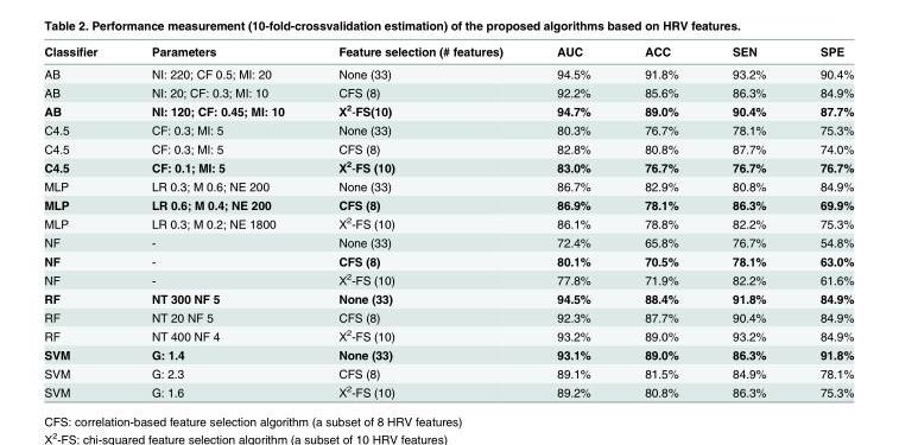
<table><thead><tr><td>Classifier</td><td>Parameters</td><td>Feature selection (# features)</td><td>AUC</td><td>ACC</td><td>SEN</td><td>SPE</td></tr></thead><tbody><tr><td>AB</td><td>NI: 220; CF 0.5; MI: 20</td><td>None (33)</td><td>94.5%</td><td>91.8%</td><td>93.2%</td><td>90.4%</td></tr><tr><td>AB</td><td>NI: 20; CF: 0.3; MI: 10</td><td>CFS (8)</td><td>92.2%</td><td>85.6%</td><td>86.3%</td><td>84.9%</td></tr><tr><td>AB</td><td>NI: 120; CF: 0.45; MI: 10</td><td>Χ<sup>2</sup>-FS(10)</td><td>94.7%</td><td>89.0%</td><td>90.4%</td><td>87.7%</td></tr><tr><td>C4.5</td><td>CF: 0.3; MI: 5</td><td>None (33)</td><td>80.3%</td><td>76.7%</td><td>78.1%</td><td>75.3%</td></tr><tr><td>C4.5</td><td>CF: 0.3; MI: 5</td><td>CFS (8)</td><td>82.8%</td><td>80.8%</td><td>87.7%</td><td>74.0%</td></tr><tr><td>C4.5</td><td>CF: 0.1; MI: 5</td><td>Χ<sup>2</sup>-FS (10)</td><td>83.0%</td><td>76.7%</td><td>76.7%</td><td>76.7%</td></tr><tr><td>MLP</td><td>LR 0.3; M 0.6; NE 200</td><td>None (33)</td><td>86.7%</td><td>82.9%</td><td>80.8%</td><td>84.9%</td></tr><tr><td>MLP</td><td>LR 0.6; M 0.4; NE 200</td><td>CFS (8)</td><td>86.9%</td><td>78.1%</td><td>86.3%</td><td>69.9%</td></tr><tr><td>MLP</td><td>LR 0.3; M 0.2; NE 1800</td><td>Χ<sup>2</sup>-FS (10)</td><td>86.1%</td><td>78.8%</td><td>82.2%</td><td>75.3%</td></tr><tr><td>NF</td><td>-</td><td>None (33)</td><td>72.4%</td><td>65.8%</td><td>76.7%</td><td>54.8%</td></tr><tr><td>NF</td><td>-</td><td>CFS (8)</td><td>80.1%</td><td>70.5%</td><td>78.1%</td><td>63.0%</td></tr><tr><td>NF</td><td>-</td><td>Χ<sup>2</sup>-FS (10)</td><td>77.8%</td><td>71.9%</td><td>82.2%</td><td>61.6%</td></tr><tr><td>RF</td><td>NT 300 NF 5</td><td>None (33)</td><td>94.5%</td><td>88.4%</td><td>91.8%</td><td>84.9%</td></tr><tr><td>RF</td><td>NT 20 NF 5</td><td>CFS (8)</td><td>92.3%</td><td>87.7%</td><td>90.4%</td><td>84.9%</td></tr><tr><td>RF</td><td>NT 400 NF 4</td><td>Χ<sup>2</sup>-FS (10)</td><td>93.2%</td><td>89.0%</td><td>93.2%</td><td>84.9%</td></tr><tr><td>SVM</td><td>G: 1.4</td><td>None (33)</td><td>93.1%</td><td>89.0%</td><td>86.3%</td><td>91.8%</td></tr><tr><td>SVM</td><td>G: 2.3</td><td>CFS (8)</td><td>89.1%</td><td>81.5%</td><td>84.9%</td><td>78.1%</td></tr><tr><td>SVM</td><td>G: 1.6</td><td>Χ<sup>2</sup>-FS (10)</td><td>89.2%</td><td>80.8%</td><td>86.3%</td><td>75.3%</td></tr></tbody></table>